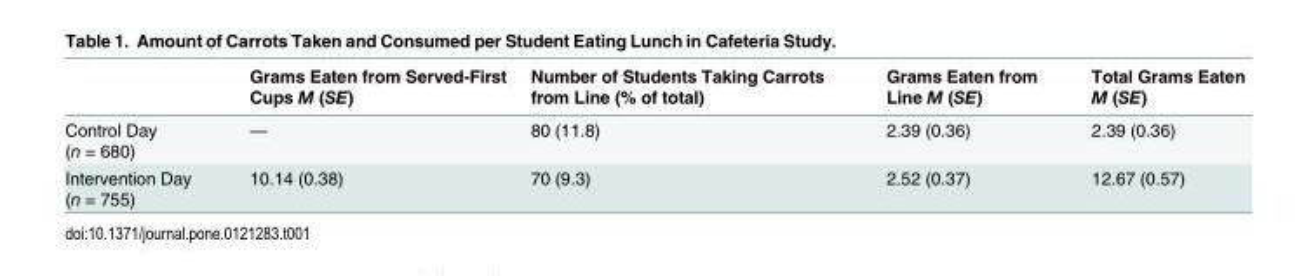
<table><thead><tr><td></td><td>Grams Eaten from Served-First Cups M (SE)</td><td>Number of Students Taking Carrots from Line (% of total)</td><td>Grams Eaten from Line M (SE)</td><td>Total Grams Eaten M (SE)</td></tr></thead><tbody><tr><td>Control Day (n = 680)</td><td>—</td><td>80 (11.8)</td><td>2.39 (0.36)</td><td>2.39 (0.36)</td></tr><tr><td>Intervention Day (n = 755)</td><td>10.14 (0.38)</td><td>70 (9.3)</td><td>2.52 (0.37)</td><td>12.67 (0.57)</td></tr></tbody></table>